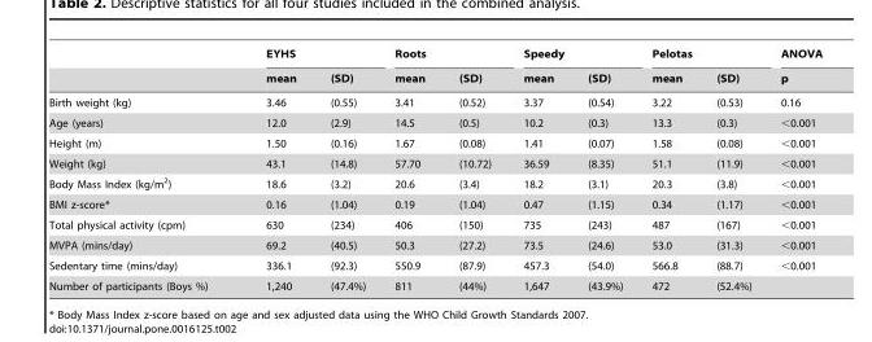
<table><thead><tr><td rowspan="2"></td><td colspan="2">EYHS</td><td colspan="2">Roots</td><td colspan="2">Speedy</td><td colspan="2">Pelotas</td><td rowspan="2">ANOVA p</td></tr><tr><td>mean</td><td>(SD)</td><td>mean</td><td>(SD)</td><td>mean</td><td>(SD)</td><td>mean</td><td>(SD)</td></tr></thead><tbody><tr><td>Birth weight (kg)</td><td>3.46</td><td>(0.55)</td><td>3.41</td><td>(0.52)</td><td>3.37</td><td>(0.54)</td><td>3.22</td><td>(0.53)</td><td>0.16</td></tr><tr><td>Age (years)</td><td>12.0</td><td>(2.9)</td><td>14.5</td><td>(0.5)</td><td>10.2</td><td>(0.3)</td><td>13.3</td><td>(0.3)</td><td>&lt;0.001</td></tr><tr><td>Height (m)</td><td>1.50</td><td>(0.16)</td><td>1.67</td><td>(0.08)</td><td>1.41</td><td>(0.07)</td><td>1.58</td><td>(0.08)</td><td>&lt;0.001</td></tr><tr><td>Weight (kg)</td><td>43.1</td><td>(14.8)</td><td>57.70</td><td>(10.72)</td><td>36.59</td><td>(8.35)</td><td>51.1</td><td>(11.9)</td><td>&lt;0.001</td></tr><tr><td>Body Mass Index (kg/m<sup>2</sup>)</td><td>18.6</td><td>(3.2)</td><td>20.6</td><td>(3.4)</td><td>18.2</td><td>(3.1)</td><td>20.3</td><td>(3.8)</td><td>&lt;0.001</td></tr><tr><td>BMI z-score*</td><td>0.16</td><td>(1.04)</td><td>0.19</td><td>(1.04)</td><td>0.47</td><td>(1.15)</td><td>0.34</td><td>(1.17)</td><td>&lt;0.001</td></tr><tr><td>Total physical activity (cpm)</td><td>630</td><td>(234)</td><td>406</td><td>(150)</td><td>735</td><td>(243)</td><td>487</td><td>(167)</td><td>&lt;0.001</td></tr><tr><td>MVPA (mins/day)</td><td>69.2</td><td>(40.5)</td><td>50.3</td><td>(27.2)</td><td>73.5</td><td>(24.6)</td><td>53.0</td><td>(31.3)</td><td>&lt;0.001</td></tr><tr><td>Sedentary time (mins/day)</td><td>336.1</td><td>(92.3)</td><td>550.9</td><td>(87.9)</td><td>457.3</td><td>(54.0)</td><td>566.8</td><td>(88.7)</td><td>&lt;0.001</td></tr><tr><td>Number of participants (Boys %)</td><td>1,240</td><td>(47.4%)</td><td>811</td><td>(44%)</td><td>1,647</td><td>(43.9%)</td><td>472</td><td>(52.4%)</td><td></td></tr></tbody></table>